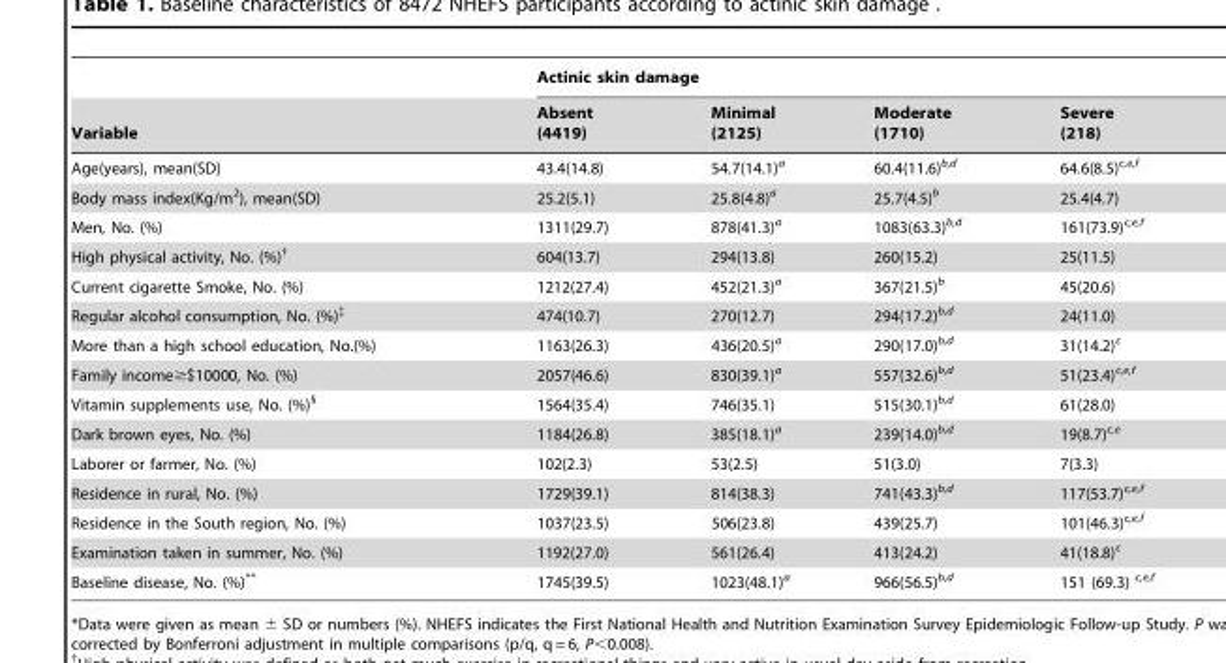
<table><thead><tr><td rowspan="2">Variable</td><td colspan="4">Actinic skin damage</td></tr><tr><td>Absent (4419)</td><td>Minimal (2125)</td><td>Moderate (1710)</td><td>Severe (218)</td></tr></thead><tbody><tr><td>Age(years), mean(SD)</td><td>43.4(14.8)</td><td>54.7(14.1)<sup>a</sup></td><td>60.4(11.6)b,d</td><td>64.6(8.5)c,e,f</td></tr><tr><td>Body mass index(Kg/m<sup>2</sup>), mean(SD)</td><td>25.2(5.1)</td><td>25.8(4.8)<sup>a</sup></td><td>25.7(4.5)<sup>b</sup></td><td>25.4(4.7)</td></tr><tr><td>Men, No. (%)</td><td>1311(29.7)</td><td>878(41.3)<sup>a</sup></td><td>1083(63.3)b,d</td><td>161(73.9)c,e,f</td></tr><tr><td>High physical activity, No. (%)†</td><td>604(13.7)</td><td>294(13.8)</td><td>260(15.2)</td><td>25(11.5)</td></tr><tr><td>Current cigarette Smoke, No. (%)</td><td>1212(27.4)</td><td>452(21.3)<sup>a</sup></td><td>367(21.5)<sup>b</sup></td><td>45(20.6)</td></tr><tr><td>Regular alcohol consumption, No. (%)‡</td><td>474(10.7)</td><td>270(12.7)</td><td>294(17.2)b,d</td><td>24(11.0)</td></tr><tr><td>More than a high school education, No.(%)</td><td>1163(26.3)</td><td>436(20.5)<sup>a</sup></td><td>290(17.0)b,d</td><td>31(14.2)<sup>c</sup></td></tr><tr><td>Family income≥$10000, No. (%)</td><td>2057(46.6)</td><td>830(39.1)<sup>a</sup></td><td>557(32.6)b,d</td><td>51(23.4)c,e,f</td></tr><tr><td>Vitamin supplements use, No. (%)§</td><td>1564(35.4)</td><td>746(35.1)</td><td>515(30.1)b,d</td><td>61(28.0)</td></tr><tr><td>Dark brown eyes, No. (%)</td><td>1184(26.8)</td><td>385(18.1)<sup>a</sup></td><td>239(14.0)b,d</td><td>19(8.7)c,e</td></tr><tr><td>Laborer or farmer, No. (%)</td><td>102(2.3)</td><td>53(2.5)</td><td>51(3.0)</td><td>7(3.3)</td></tr><tr><td>Residence in rural, No. (%)</td><td>1729(39.1)</td><td>814(38.3)</td><td>741(43.3)b,d</td><td>117(53.7)c,e,f</td></tr><tr><td>Residence in the South region, No. (%)</td><td>1037(23.5)</td><td>506(23.8)</td><td>439(25.7)</td><td>101(46.3)c,e,f</td></tr><tr><td>Examination taken in summer, No. (%)</td><td>1192(27.0)</td><td>561(26.4)</td><td>413(24.2)</td><td>41(18.8)<sup>c</sup></td></tr><tr><td>Baseline disease, No. (%)**</td><td>1745(39.5)</td><td>1023(48.1)<sup>a</sup></td><td>966(56.5)b,d</td><td>151 (69.3) c,e,f</td></tr></tbody></table>